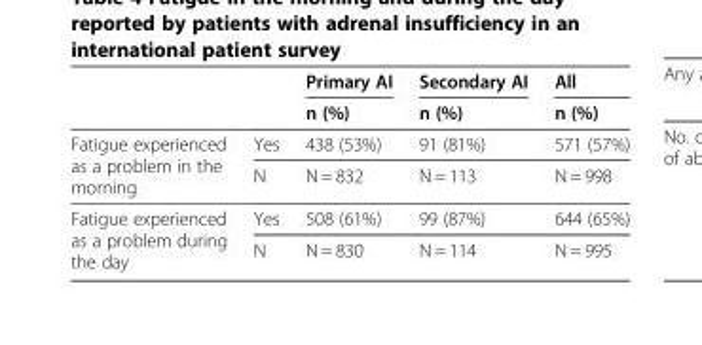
<table><thead><tr><td rowspan="2"></td><td rowspan="2"></td><td rowspan="2">Primary AI n (%)</td><td rowspan="2">Secondary AI n (%)</td><td rowspan="2">All n (%)</td></tr><tr></tr></thead><tbody><tr><td rowspan="2">Fatigue experienced as a problem in the morning</td><td>Yes</td><td>438 (53%)</td><td>91 (81%)</td><td>571 (57%)</td></tr><tr><td>N</td><td>N = 832</td><td>N = 113</td><td>N = 998</td></tr><tr><td rowspan="2">Fatigue experienced as a problem during the day</td><td>Yes</td><td>508 (61%)</td><td>99 (87%)</td><td>644 (65%)</td></tr><tr><td>N</td><td>N = 830</td><td>N = 114</td><td>N = 995</td></tr></tbody></table>